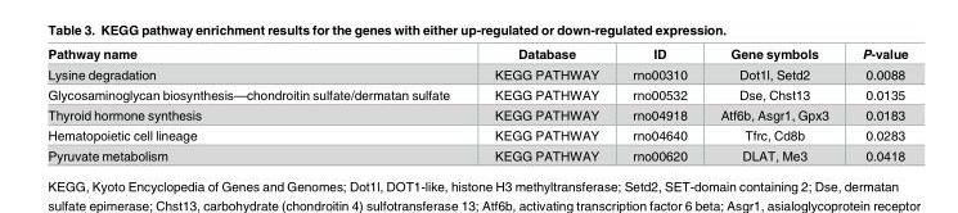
<table><thead><tr><td>Pathway name</td><td>Database</td><td>ID</td><td>Gene symbols</td><td>P-value</td></tr></thead><tbody><tr><td>Lysine degradation</td><td>KEGG PATHWAY</td><td>rno00310</td><td>Dot1l, Setd2</td><td>0.0088</td></tr><tr><td>Glycosaminoglycan biosynthesis—chondroitin sulfate/dermatan sulfate</td><td>KEGG PATHWAY</td><td>rno00532</td><td>Dse, Chst13</td><td>0.0135</td></tr><tr><td>Thyroid hormone synthesis</td><td>KEGG PATHWAY</td><td>rno04918</td><td>Atf6b, Asgr1, Gpx3</td><td>0.0183</td></tr><tr><td>Hematopoietic cell lineage</td><td>KEGG PATHWAY</td><td>rno04640</td><td>Tfrc, Cd8b</td><td>0.0283</td></tr><tr><td>Pyruvate metabolism</td><td>KEGG PATHWAY</td><td>rno00620</td><td>DLAT, Me3</td><td>0.0418</td></tr></tbody></table>